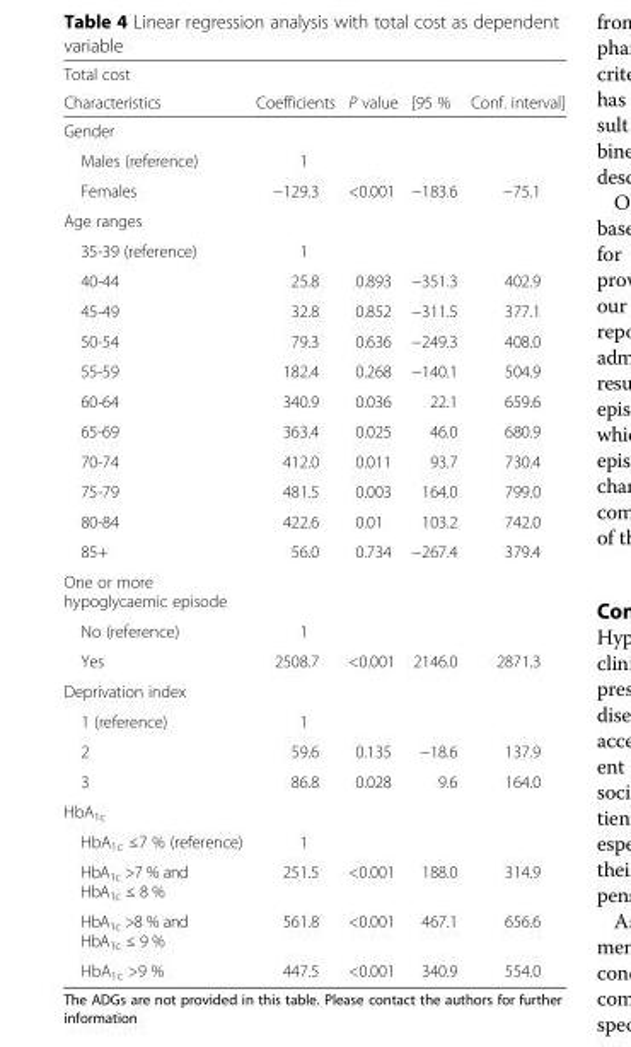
<table><thead><tr><td colspan="5">Total cost</td></tr><tr><td>Characteristics</td><td>Coefficients</td><td>P value</td><td>[95 %</td><td>Conf. interval]</td></tr></thead><tbody><tr><td colspan="5">Gender</td></tr><tr><td>Males (reference)</td><td>1</td><td></td><td></td><td></td></tr><tr><td>Females</td><td>−129.3</td><td>&lt;0.001</td><td>−183.6</td><td>−75.1</td></tr><tr><td colspan="5">Age ranges</td></tr><tr><td>35-39 (reference)</td><td>1</td><td></td><td></td><td></td></tr><tr><td>40-44</td><td>25.8</td><td>0.893</td><td>−351.3</td><td>402.9</td></tr><tr><td>45-49</td><td>32.8</td><td>0.852</td><td>−311.5</td><td>377.1</td></tr><tr><td>50-54</td><td>79.3</td><td>0.636</td><td>−249.3</td><td>408.0</td></tr><tr><td>55-59</td><td>182.4</td><td>0.268</td><td>−140.1</td><td>504.9</td></tr><tr><td>60-64</td><td>340.9</td><td>0.036</td><td>22.1</td><td>659.6</td></tr><tr><td>65-69</td><td>363.4</td><td>0.025</td><td>46.0</td><td>680.9</td></tr><tr><td>70-74</td><td>412.0</td><td>0.011</td><td>93.7</td><td>730.4</td></tr><tr><td>75-79</td><td>481.5</td><td>0.003</td><td>164.0</td><td>799.0</td></tr><tr><td>80-84</td><td>422.6</td><td>0.01</td><td>103.2</td><td>742.0</td></tr><tr><td>85+</td><td>56.0</td><td>0.734</td><td>−267.4</td><td>379.4</td></tr><tr><td colspan="5">One or more hypoglycaemic episode</td></tr><tr><td>No (reference)</td><td>1</td><td></td><td></td><td></td></tr><tr><td>Yes</td><td>2508.7</td><td>&lt;0.001</td><td>2146.0</td><td>2871.3</td></tr><tr><td colspan="5">Deprivation index</td></tr><tr><td>1 (reference)</td><td>1</td><td></td><td></td><td></td></tr><tr><td>2</td><td>59.6</td><td>0.135</td><td>−18.6</td><td>137.9</td></tr><tr><td>3</td><td>86.8</td><td>0.028</td><td>9.6</td><td>164.0</td></tr><tr><td colspan="5">HbA<sub>1c</sub></td></tr><tr><td>HbA<sub>1c</sub> ≤7 % (reference)</td><td>1</td><td></td><td></td><td></td></tr><tr><td>HbA<sub>1c</sub> &gt;7 % and HbA<sub>1c</sub> ≤ 8 %</td><td>251.5</td><td>&lt;0.001</td><td>188.0</td><td>314.9</td></tr><tr><td>HbA<sub>1c</sub> &gt;8 % and HbA<sub>1c</sub> ≤ 9 %</td><td>561.8</td><td>&lt;0.001</td><td>467.1</td><td>656.6</td></tr><tr><td>HbA<sub>1c</sub> &gt;9 %</td><td>447.5</td><td>&lt;0.001</td><td>340.9</td><td>554.0</td></tr></tbody></table>